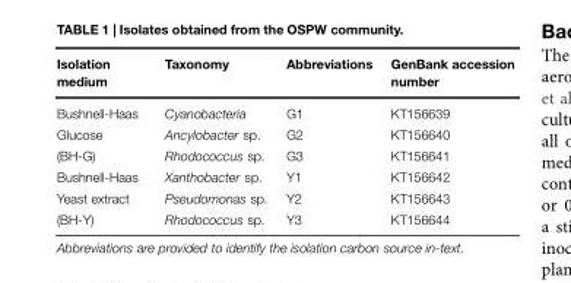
<table><thead><tr><td>Isolation medium</td><td>Taxonomy</td><td>Abbreviations</td><td>GenBank accession number</td></tr></thead><tbody><tr><td>Bushnell-Haas</td><td>Cyanobacteria</td><td>G1</td><td>KT156639</td></tr><tr><td>Glucose</td><td>Ancylobacter sp.</td><td>G2</td><td>KT156640</td></tr><tr><td>(BH-G)</td><td>Rhodococcus sp.</td><td>G3</td><td>KT156641</td></tr><tr><td>Bushnell-Haas</td><td>Xanthobacter sp.</td><td>Y1</td><td>KT156642</td></tr><tr><td>Yeast extract</td><td>Pseudomonas sp.</td><td>Y2</td><td>KT156643</td></tr><tr><td>(BH-Y)</td><td>Rhodococcus sp.</td><td>Y3</td><td>KT156644</td></tr></tbody></table>